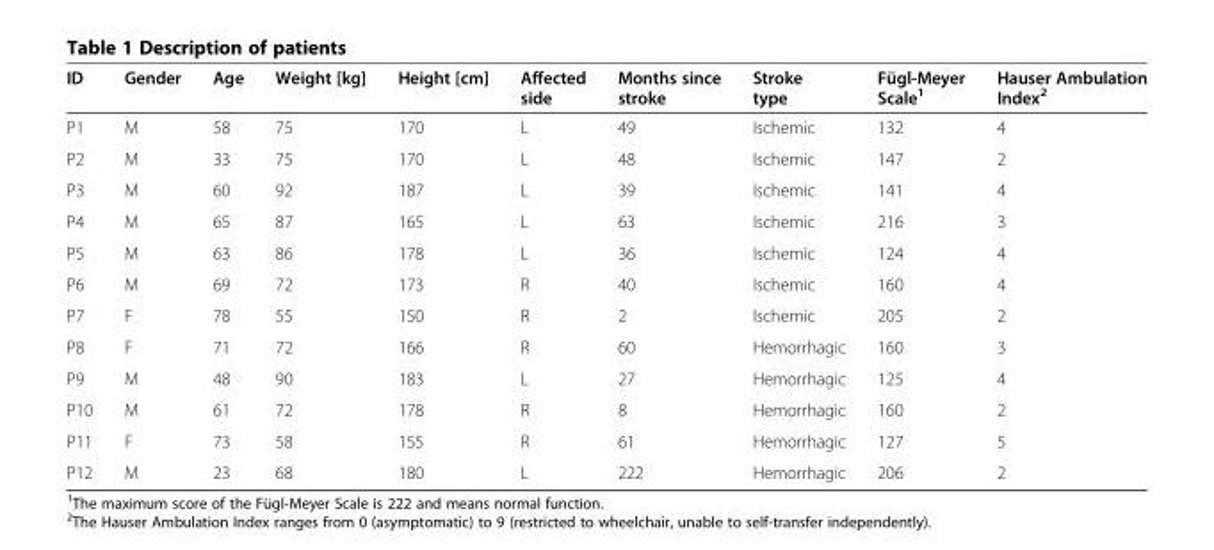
<table><thead><tr><td>ID</td><td>Gender</td><td>Age</td><td>Weight [kg]</td><td>Height [cm]</td><td>Affected side</td><td>Months since stroke</td><td>Stroke type</td><td>Fügl-Meyer Scale<sup>1</sup></td><td>Hauser Ambulation Index<sup>2</sup></td></tr></thead><tbody><tr><td>P1</td><td>M</td><td>58</td><td>75</td><td>170</td><td>L</td><td>49</td><td>Ischemic</td><td>132</td><td>4</td></tr><tr><td>P2</td><td>M</td><td>33</td><td>75</td><td>170</td><td>L</td><td>48</td><td>Ischemic</td><td>147</td><td>2</td></tr><tr><td>P3</td><td>M</td><td>60</td><td>92</td><td>187</td><td>L</td><td>39</td><td>Ischemic</td><td>141</td><td>4</td></tr><tr><td>P4</td><td>M</td><td>65</td><td>87</td><td>165</td><td>L</td><td>63</td><td>Ischemic</td><td>216</td><td>3</td></tr><tr><td>P5</td><td>M</td><td>63</td><td>86</td><td>178</td><td>L</td><td>36</td><td>Ischemic</td><td>124</td><td>4</td></tr><tr><td>P6</td><td>M</td><td>69</td><td>72</td><td>173</td><td>R</td><td>40</td><td>Ischemic</td><td>160</td><td>4</td></tr><tr><td>P7</td><td>F</td><td>78</td><td>55</td><td>150</td><td>R</td><td>2</td><td>Ischemic</td><td>205</td><td>2</td></tr><tr><td>P8</td><td>F</td><td>71</td><td>72</td><td>166</td><td>R</td><td>60</td><td>Hemorrhagic</td><td>160</td><td>3</td></tr><tr><td>P9</td><td>M</td><td>48</td><td>90</td><td>183</td><td>L</td><td>27</td><td>Hemorrhagic</td><td>125</td><td>4</td></tr><tr><td>P10</td><td>M</td><td>61</td><td>72</td><td>178</td><td>R</td><td>8</td><td>Hemorrhagic</td><td>160</td><td>2</td></tr><tr><td>P11</td><td>F</td><td>73</td><td>58</td><td>155</td><td>R</td><td>61</td><td>Hemorrhagic</td><td>127</td><td>5</td></tr><tr><td>P12</td><td>M</td><td>23</td><td>68</td><td>180</td><td>L</td><td>222</td><td>Hemorrhagic</td><td>206</td><td>2</td></tr></tbody></table>